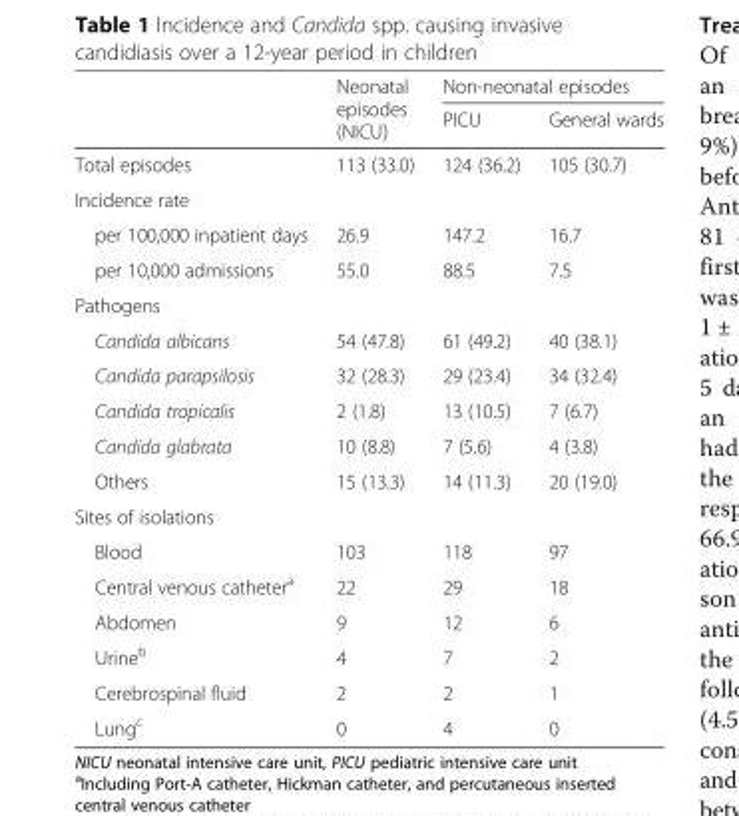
<table><thead><tr><td rowspan="2"></td><td rowspan="2">Neonatal episodes (NICU)</td><td colspan="2">Non-neonatal episodes</td></tr><tr><td>PICU</td><td>General wards</td></tr></thead><tbody><tr><td>Total episodes</td><td>113 (33.0)</td><td>124 (36.2)</td><td>105 (30.7)</td></tr><tr><td colspan="4">Incidence rate</td></tr><tr><td>per 100,000 inpatient days</td><td>26.9</td><td>147.2</td><td>16.7</td></tr><tr><td>per 10,000 admissions</td><td>55.0</td><td>88.5</td><td>7.5</td></tr><tr><td colspan="4">Pathogens</td></tr><tr><td>Candida albicans</td><td>54 (47.8)</td><td>61 (49.2)</td><td>40 (38.1)</td></tr><tr><td>Candida parapsilosis</td><td>32 (28.3)</td><td>29 (23.4)</td><td>34 (32.4)</td></tr><tr><td>Candida tropicalis</td><td>2 (1.8)</td><td>13 (10.5)</td><td>7 (6.7)</td></tr><tr><td>Candida glabrata</td><td>10 (8.8)</td><td>7 (5.6)</td><td>4 (3.8)</td></tr><tr><td>Others</td><td>15 (13.3)</td><td>14 (11.3)</td><td>20 (19.0)</td></tr><tr><td colspan="4">Sites of isolations</td></tr><tr><td>Blood</td><td>103</td><td>118</td><td>97</td></tr><tr><td>Central venous catheter<sup>a</sup></td><td>22</td><td>29</td><td>18</td></tr><tr><td>Abdomen</td><td>9</td><td>12</td><td>6</td></tr><tr><td>Urine<sup>b</sup></td><td>4</td><td>7</td><td>2</td></tr><tr><td>Cerebrospinal fluid</td><td>2</td><td>2</td><td>1</td></tr><tr><td>Lung<sup>c</sup></td><td>0</td><td>4</td><td>0</td></tr></tbody></table>